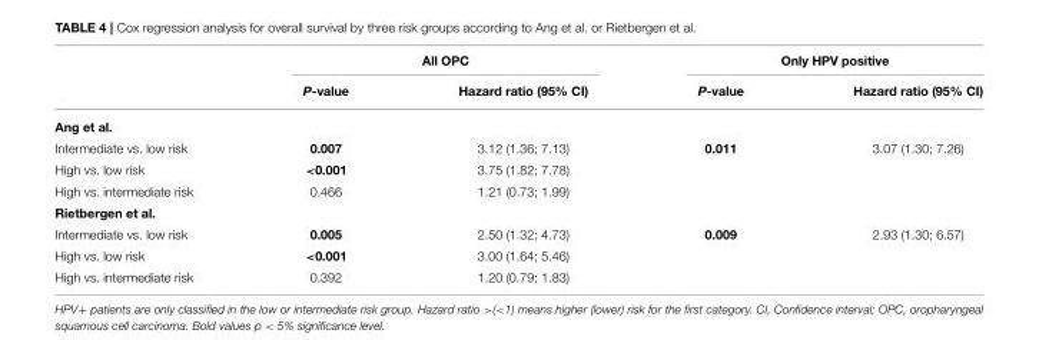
<table><thead><tr><td rowspan="2"></td><td colspan="2">All OPC</td><td colspan="2">Only HPV positive</td></tr><tr><td>P-value</td><td>Hazard ratio (95% CI)</td><td>P-value</td><td>Hazard ratio (95% CI)</td></tr></thead><tbody><tr><td colspan="5">Ang et al.</td></tr><tr><td>Intermediate vs. low risk</td><td>0.007</td><td>3.12 (1.36; 7.13)</td><td>0.011</td><td>3.07 (1.30; 7.26)</td></tr><tr><td>High vs. low risk</td><td>&lt;0.001</td><td>3.75 (1.82; 7.78)</td><td></td><td></td></tr><tr><td>High vs. intermediate risk</td><td>0.466</td><td>1.21 (0.73; 1.99)</td><td></td><td></td></tr><tr><td colspan="5">Rietbergen et al.</td></tr><tr><td>Intermediate vs. low risk</td><td>0.005</td><td>2.50 (1.32; 4.73)</td><td>0.009</td><td>2.93 (1.30; 6.57)</td></tr><tr><td>High vs. low risk</td><td>&lt;0.001</td><td>3.00 (1.64; 5.46)</td><td></td><td></td></tr><tr><td>High vs. intermediate risk</td><td>0.392</td><td>1.20 (0.79; 1.83)</td><td></td><td></td></tr></tbody></table>